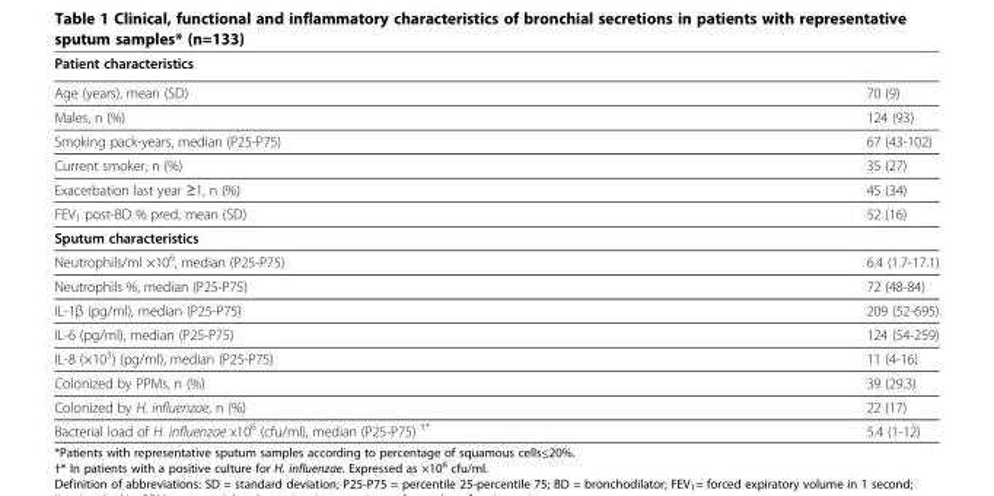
<table><thead><tr><td>Patient characteristics</td><td></td></tr></thead><tbody><tr><td>Age (years), mean (SD)</td><td>70 (9)</td></tr><tr><td>Males, n (%)</td><td>124 (93)</td></tr><tr><td>Smoking pack-years, median (P25-P75)</td><td>67 (43-102)</td></tr><tr><td>Current smoker, n (%)</td><td>35 (27)</td></tr><tr><td>Exacerbation last year ≥1, n (%)</td><td>45 (34)</td></tr><tr><td>FEV<sub>1</sub> post-BD % pred, mean (SD)</td><td>52 (16)</td></tr><tr><td colspan="2">Sputum characteristics</td></tr><tr><td>Neutrophils/ml ×10<sup>6</sup>, median (P25-P75)</td><td>6.4 (1.7-17.1)</td></tr><tr><td>Neutrophils %, median (P25-P75)</td><td>72 (48-84)</td></tr><tr><td>IL-1β (pg/ml), median (P25-P75)</td><td>209 (52-695)</td></tr><tr><td>IL-6 (pg/ml), median (P25-P75)</td><td>124 (54-259)</td></tr><tr><td>IL-8 (×10<sup>3</sup>) (pg/ml), median (P25-P75)</td><td>11 (4-16)</td></tr><tr><td>Colonized by PPMs, n (%)</td><td>39 (29.3)</td></tr><tr><td>Colonized by H. influenzae, n (%)</td><td>22 (17)</td></tr><tr><td>Bacterial load of H. influenzae x10<sup>6</sup> (cfu/ml), median (P25-P75) <sup>†*</sup></td><td>5.4 (1-12)</td></tr></tbody></table>